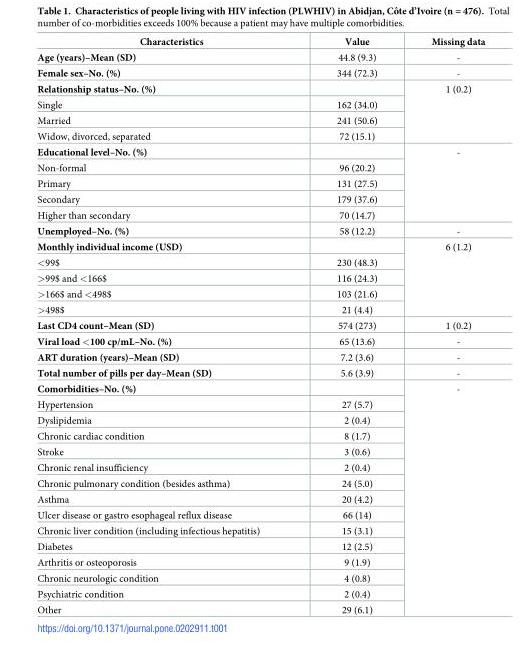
<table><thead><tr><td>Characteristics</td><td>Value</td><td>Missing data</td></tr></thead><tbody><tr><td>Age (years)–Mean (SD)</td><td>44.8 (9.3)</td><td>-</td></tr><tr><td>Female sex–No. (%)</td><td>344 (72.3)</td><td>-</td></tr><tr><td colspan="2">Relationship status–No. (%)</td><td rowspan="4">1 (0.2)</td></tr><tr><td>Single</td><td>162 (34.0)</td></tr><tr><td>Married</td><td>241 (50.6)</td></tr><tr><td>Widow, divorced, separated</td><td>72 (15.1)</td></tr><tr><td colspan="2">Educational level–No. (%)</td><td rowspan="5">-</td></tr><tr><td>Non-formal</td><td>96 (20.2)</td></tr><tr><td>Primary</td><td>131 (27.5)</td></tr><tr><td>Secondary</td><td>179 (37.6)</td></tr><tr><td>Higher than secondary</td><td>70 (14.7)</td></tr><tr><td>Unemployed–No. (%)</td><td>58 (12.2)</td><td>-</td></tr><tr><td colspan="2">Monthly individual income (USD)</td><td rowspan="5">6 (1.2)</td></tr><tr><td>&lt;99$</td><td>230 (48.3)</td></tr><tr><td>&gt;99$ and &lt;166$</td><td>116 (24.3)</td></tr><tr><td>&gt;166$ and &lt;498$</td><td>103 (21.6)</td></tr><tr><td>&gt;498$</td><td>21 (4.4)</td></tr><tr><td>Last CD4 count–Mean (SD)</td><td>574 (273)</td><td>1 (0.2)</td></tr><tr><td>Viral load &lt;100 cp/mL–No. (%)</td><td>65 (13.6)</td><td>-</td></tr><tr><td>ART duration (years)–Mean (SD)</td><td>7.2 (3.6)</td><td>-</td></tr><tr><td>Total number of pills per day–Mean (SD)</td><td>5.6 (3.9)</td><td>-</td></tr><tr><td colspan="2">Comorbidities–No. (%)</td><td rowspan="15">-</td></tr><tr><td>Hypertension</td><td>27 (5.7)</td></tr><tr><td>Dyslipidemia</td><td>2 (0.4)</td></tr><tr><td>Chronic cardiac condition</td><td>8 (1.7)</td></tr><tr><td>Stroke</td><td>3 (0.6)</td></tr><tr><td>Chronic renal insufficiency</td><td>2 (0.4)</td></tr><tr><td>Chronic pulmonary condition (besides asthma)</td><td>24 (5.0)</td></tr><tr><td>Asthma</td><td>20 (4.2)</td></tr><tr><td>Ulcer disease or gastro esophageal reflux disease</td><td>66 (14)</td></tr><tr><td>Chronic liver condition (including infectious hepatitis)</td><td>15 (3.1)</td></tr><tr><td>Diabetes</td><td>12 (2.5)</td></tr><tr><td>Arthritis or osteoporosis</td><td>9 (1.9)</td></tr><tr><td>Chronic neurologic condition</td><td>4 (0.8)</td></tr><tr><td>Psychiatric condition</td><td>2 (0.4)</td></tr><tr><td>Other</td><td>29 (6.1)</td></tr></tbody></table>